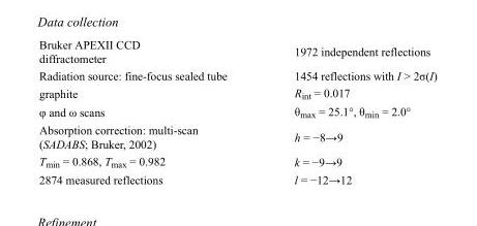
<table><tbody><tr><td>Bruker APEXII CCD diffractometer</td><td>1972 independent reflections</td></tr><tr><td>Radiation source: fine-focus sealed tube</td><td>1454 reflections with I &gt; 2σ(I)</td></tr><tr><td>graphite</td><td>R<sub>int</sub> = 0.017</td></tr><tr><td>φ and ω scans</td><td>θ<sub>max</sub> = 25.1°, θ<sub>min</sub> = 2.0°</td></tr><tr><td>Absorption correction: multi-scan (SADABS; Bruker, 2002)</td><td>h = −8→9</td></tr><tr><td>T<sub>min</sub> = 0.868, T<sub>max</sub> = 0.982</td><td>k = −9→9</td></tr><tr><td>2874 measured reflections</td><td>l = −12→12</td></tr></tbody></table>